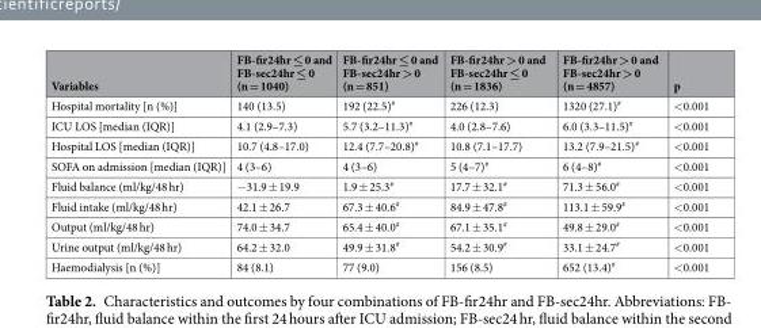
<table><thead><tr><td>Variables</td><td>FB-fir24hr ≤ 0 and FB-sec24hr ≤ 0 (n = 1040)</td><td>FB-fir24hr ≤ 0 and FB-sec24hr &gt; 0 (n = 851)</td><td>FB-fir24hr &gt; 0 and FB-sec24hr ≤ 0 (n = 1836)</td><td>FB-fir24hr &gt; 0 and FB-sec24hr &gt; 0 (n = 4857)</td><td>p</td></tr></thead><tbody><tr><td>Hospital mortality [n (%)]</td><td>140 (13.5)</td><td>192 (22.5)<sup>#</sup></td><td>226 (12.3)</td><td>1320 (27.1)<sup>#</sup></td><td>&lt;0.001</td></tr><tr><td>ICU LOS [median (IQR)]</td><td>4.1 (2.9–7.3)</td><td>5.7 (3.2–11.3)<sup>#</sup></td><td>4.0 (2.8–7.6)</td><td>6.0 (3.3–11.5)<sup>#</sup></td><td>&lt;0.001</td></tr><tr><td>Hospital LOS [median (IQR)]</td><td>10.7 (4.8–17.0)</td><td>12.4 (7.7–20.8)<sup>#</sup></td><td>10.8 (7.1–17.7)</td><td>13.2 (7.9–21.5)<sup>#</sup></td><td>&lt;0.001</td></tr><tr><td>SOFA on admission [median (IQR)]</td><td>4 (3–6)</td><td>4 (3–6)</td><td>5 (4–7)<sup>#</sup></td><td>6 (4–8)<sup>#</sup></td><td>&lt;0.001</td></tr><tr><td>Fluid balance (ml/kg/48 hr)</td><td>−31.9 ± 19.9</td><td>1.9 ± 25.3<sup>#</sup></td><td>17.7 ± 32.1<sup>#</sup></td><td>71.3 ± 56.0<sup>#</sup></td><td>&lt;0.001</td></tr><tr><td>Fluid intake (ml/kg/48 hr)</td><td>42.1 ± 26.7</td><td>67.3 ± 40.6<sup>#</sup></td><td>84.9 ± 47.8<sup>#</sup></td><td>113.1 ± 59.9<sup>#</sup></td><td>&lt;0.001</td></tr><tr><td>Output (ml/kg/48 hr)</td><td>74.0 ± 34.7</td><td>65.4 ± 40.0<sup>#</sup></td><td>67.1 ± 35.1<sup>#</sup></td><td>49.8 ± 29.0<sup>#</sup></td><td>&lt;0.001</td></tr><tr><td>Urine output (ml/kg/48 hr)</td><td>64.2 ± 32.0</td><td>49.9 ± 31.8<sup>#</sup></td><td>54.2 ± 30.9<sup>#</sup></td><td>33.1 ± 24.7<sup>#</sup></td><td>&lt;0.001</td></tr><tr><td>Haemodialysis [n (%)]</td><td>84 (8.1)</td><td>77 (9.0)</td><td>156 (8.5)</td><td>652 (13.4)<sup>#</sup></td><td>&lt;0.001</td></tr></tbody></table>